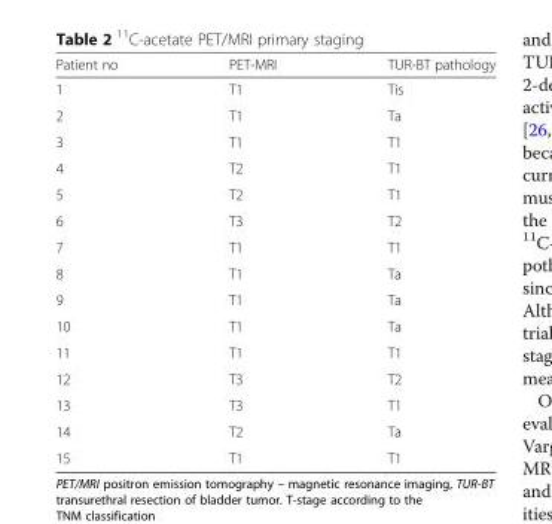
<table><thead><tr><td>Patient no</td><td>PET-MRI</td><td>TUR-BT pathology</td></tr></thead><tbody><tr><td>1</td><td>T1</td><td>Tis</td></tr><tr><td>2</td><td>T1</td><td>Ta</td></tr><tr><td>3</td><td>T1</td><td>T1</td></tr><tr><td>4</td><td>T2</td><td>T1</td></tr><tr><td>5</td><td>T2</td><td>T1</td></tr><tr><td>6</td><td>T3</td><td>T2</td></tr><tr><td>7</td><td>T1</td><td>T1</td></tr><tr><td>8</td><td>T1</td><td>Ta</td></tr><tr><td>9</td><td>T1</td><td>Ta</td></tr><tr><td>10</td><td>T1</td><td>Ta</td></tr><tr><td>11</td><td>T1</td><td>T1</td></tr><tr><td>12</td><td>T3</td><td>T2</td></tr><tr><td>13</td><td>T3</td><td>T1</td></tr><tr><td>14</td><td>T2</td><td>Ta</td></tr><tr><td>15</td><td>T1</td><td>T1</td></tr></tbody></table>